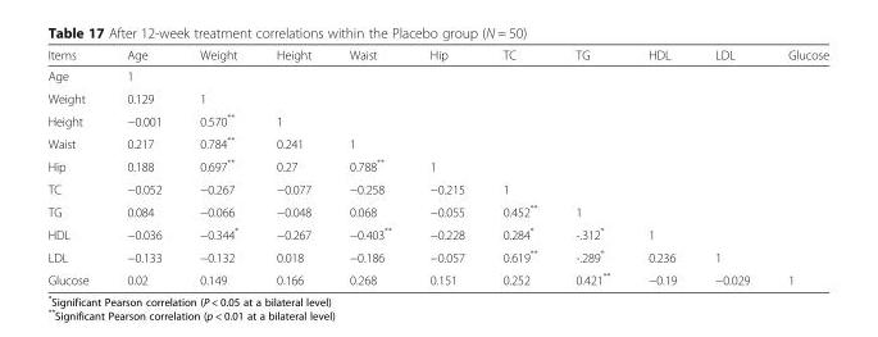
<table><thead><tr><td>Items</td><td>Age</td><td>Weight</td><td>Height</td><td>Waist</td><td>Hip</td><td>TC</td><td>TG</td><td>HDL</td><td>LDL</td><td>Glucose</td></tr></thead><tbody><tr><td>Age</td><td>1</td><td></td><td></td><td></td><td></td><td></td><td></td><td></td><td></td><td></td></tr><tr><td>Weight</td><td>0.129</td><td>1</td><td></td><td></td><td></td><td></td><td></td><td></td><td></td><td></td></tr><tr><td>Height</td><td>−0.001</td><td>0.570**</td><td>1</td><td></td><td></td><td></td><td></td><td></td><td></td><td></td></tr><tr><td>Waist</td><td>0.217</td><td>0.784**</td><td>0.241</td><td>1</td><td></td><td></td><td></td><td></td><td></td><td></td></tr><tr><td>Hip</td><td>0.188</td><td>0.697**</td><td>0.27</td><td>0.788**</td><td>1</td><td></td><td></td><td></td><td></td><td></td></tr><tr><td>TC</td><td>−0.052</td><td>−0.267</td><td>−0.077</td><td>−0.258</td><td>−0.215</td><td>1</td><td></td><td></td><td></td><td></td></tr><tr><td>TG</td><td>0.084</td><td>−0.066</td><td>−0.048</td><td>0.068</td><td>−0.055</td><td>0.452**</td><td>1</td><td></td><td></td><td></td></tr><tr><td>HDL</td><td>−0.036</td><td>−0.344*</td><td>−0.267</td><td>−0.403**</td><td>−0.228</td><td>0.284*</td><td>-.312*</td><td>1</td><td></td><td></td></tr><tr><td>LDL</td><td>−0.133</td><td>−0.132</td><td>0.018</td><td>−0.186</td><td>−0.057</td><td>0.619**</td><td>-.289*</td><td>0.236</td><td>1</td><td></td></tr><tr><td>Glucose</td><td>0.02</td><td>0.149</td><td>0.166</td><td>0.268</td><td>0.151</td><td>0.252</td><td>0.421**</td><td>−0.19</td><td>−0.029</td><td>1</td></tr></tbody></table>